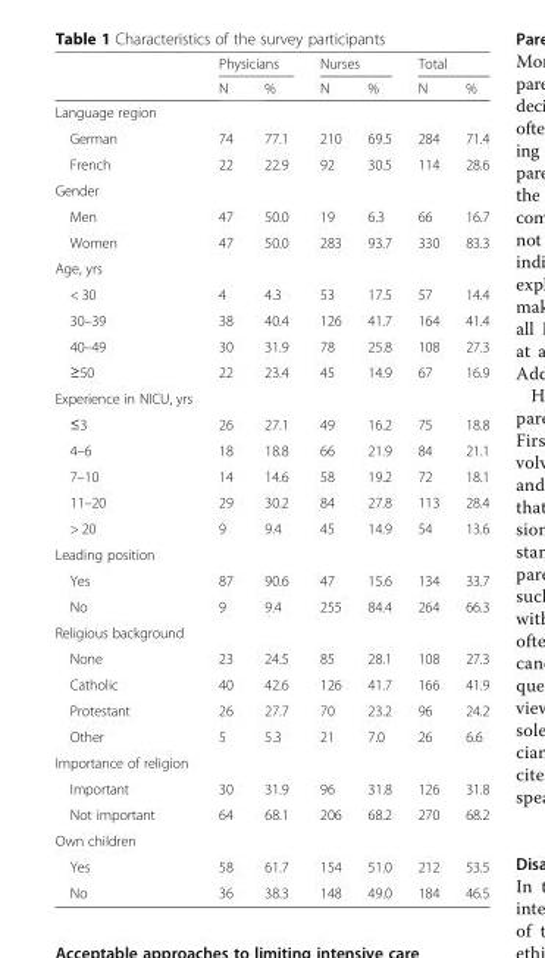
<table><thead><tr><td rowspan="2"></td><td colspan="2">Physicians</td><td colspan="2">Nurses</td><td colspan="2">Total</td></tr><tr><td>N</td><td>%</td><td>N</td><td>%</td><td>N</td><td>%</td></tr></thead><tbody><tr><td colspan="7">Language region</td></tr><tr><td>German</td><td>74</td><td>77.1</td><td>210</td><td>69.5</td><td>284</td><td>71.4</td></tr><tr><td>French</td><td>22</td><td>22.9</td><td>92</td><td>30.5</td><td>114</td><td>28.6</td></tr><tr><td colspan="7">Gender</td></tr><tr><td>Men</td><td>47</td><td>50.0</td><td>19</td><td>6.3</td><td>66</td><td>16.7</td></tr><tr><td>Women</td><td>47</td><td>50.0</td><td>283</td><td>93.7</td><td>330</td><td>83.3</td></tr><tr><td colspan="7">Age, yrs</td></tr><tr><td>&lt; 30</td><td>4</td><td>4.3</td><td>53</td><td>17.5</td><td>57</td><td>14.4</td></tr><tr><td>30–39</td><td>38</td><td>40.4</td><td>126</td><td>41.7</td><td>164</td><td>41.4</td></tr><tr><td>40–49</td><td>30</td><td>31.9</td><td>78</td><td>25.8</td><td>108</td><td>27.3</td></tr><tr><td>≥50</td><td>22</td><td>23.4</td><td>45</td><td>14.9</td><td>67</td><td>16.9</td></tr><tr><td colspan="7">Experience in NICU, yrs</td></tr><tr><td>≤3</td><td>26</td><td>27.1</td><td>49</td><td>16.2</td><td>75</td><td>18.8</td></tr><tr><td>4–6</td><td>18</td><td>18.8</td><td>66</td><td>21.9</td><td>84</td><td>21.1</td></tr><tr><td>7–10</td><td>14</td><td>14.6</td><td>58</td><td>19.2</td><td>72</td><td>18.1</td></tr><tr><td>11–20</td><td>29</td><td>30.2</td><td>84</td><td>27.8</td><td>113</td><td>28.4</td></tr><tr><td>&gt; 20</td><td>9</td><td>9.4</td><td>45</td><td>14.9</td><td>54</td><td>13.6</td></tr><tr><td colspan="7">Leading position</td></tr><tr><td>Yes</td><td>87</td><td>90.6</td><td>47</td><td>15.6</td><td>134</td><td>33.7</td></tr><tr><td>No</td><td>9</td><td>9.4</td><td>255</td><td>84.4</td><td>264</td><td>66.3</td></tr><tr><td colspan="7">Religious background</td></tr><tr><td>None</td><td>23</td><td>24.5</td><td>85</td><td>28.1</td><td>108</td><td>27.3</td></tr><tr><td>Catholic</td><td>40</td><td>42.6</td><td>126</td><td>41.7</td><td>166</td><td>41.9</td></tr><tr><td>Protestant</td><td>26</td><td>27.7</td><td>70</td><td>23.2</td><td>96</td><td>24.2</td></tr><tr><td>Other</td><td>5</td><td>5.3</td><td>21</td><td>7.0</td><td>26</td><td>6.6</td></tr><tr><td colspan="7">Importance of religion</td></tr><tr><td>Important</td><td>30</td><td>31.9</td><td>96</td><td>31.8</td><td>126</td><td>31.8</td></tr><tr><td>Not important</td><td>64</td><td>68.1</td><td>206</td><td>68.2</td><td>270</td><td>68.2</td></tr><tr><td colspan="7">Own children</td></tr><tr><td>Yes</td><td>58</td><td>61.7</td><td>154</td><td>51.0</td><td>212</td><td>53.5</td></tr><tr><td>No</td><td>36</td><td>38.3</td><td>148</td><td>49.0</td><td>184</td><td>46.5</td></tr></tbody></table>